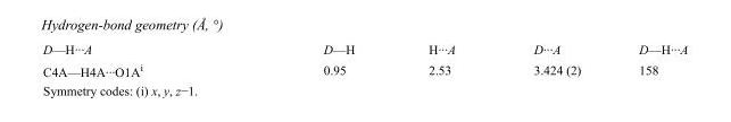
<table><tbody><tr><td>D—H···A</td><td>D—H</td><td>H···A</td><td>D···A</td><td>D—H···A</td></tr><tr><td>C4A—H4A···O1A<sup>i</sup></td><td>0.95</td><td>2.53</td><td>3.424 (2)</td><td>158</td></tr></tbody></table>